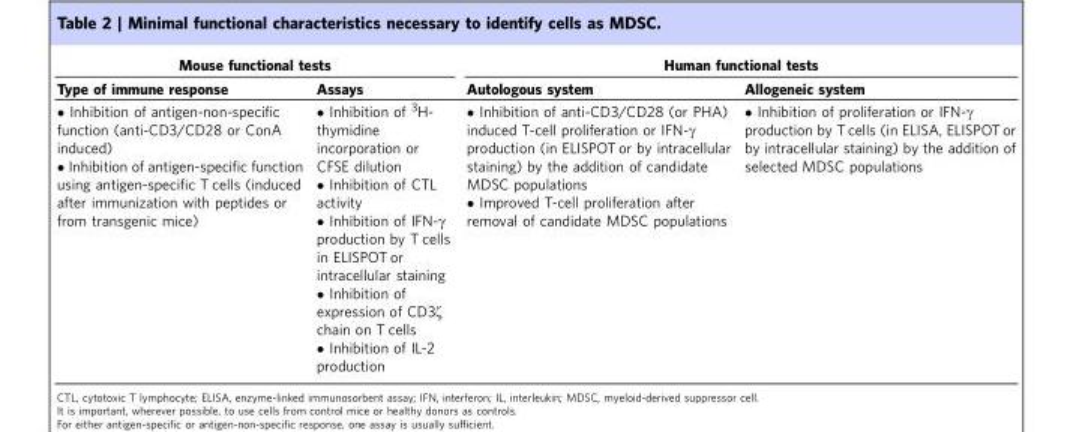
<table><thead><tr><td colspan="2">Mouse functional tests</td><td colspan="2">Human functional tests</td></tr><tr><td>Type of immune response</td><td>Assays</td><td>Autologous system</td><td>Allogeneic system</td></tr></thead><tbody><tr><td>· Inhibition of antigen-non-specific function (anti-CD3/CD28 or ConA induced) · Inhibition of antigen-specific function using antigen-specific T cells (induced after immunization with peptides or from transgenic mice)</td><td>· Inhibition of <sup>3</sup>H- thymidine incorporation or CFSE dilution · Inhibition of CTL activity · Inhibition of IFN-γ production by T cells in ELISPOT or intracellular staining · Inhibition of expression of CD3ζ chain on T cells · Inhibition of IL-2 production</td><td>· Inhibition of anti-CD3/CD28 (or PHA) induced T-cell proliferation or IFN-γ production (in ELISPOT or by intracellular staining) by the addition of candidate MDSC populations · Improved T-cell proliferation after removal of candidate MDSC populations</td><td>· Inhibition of proliferation or IFN-γ production by T cells (in ELISA, ELISPOT or by intracellular staining) by the addition of selected MDSC populations</td></tr></tbody></table>